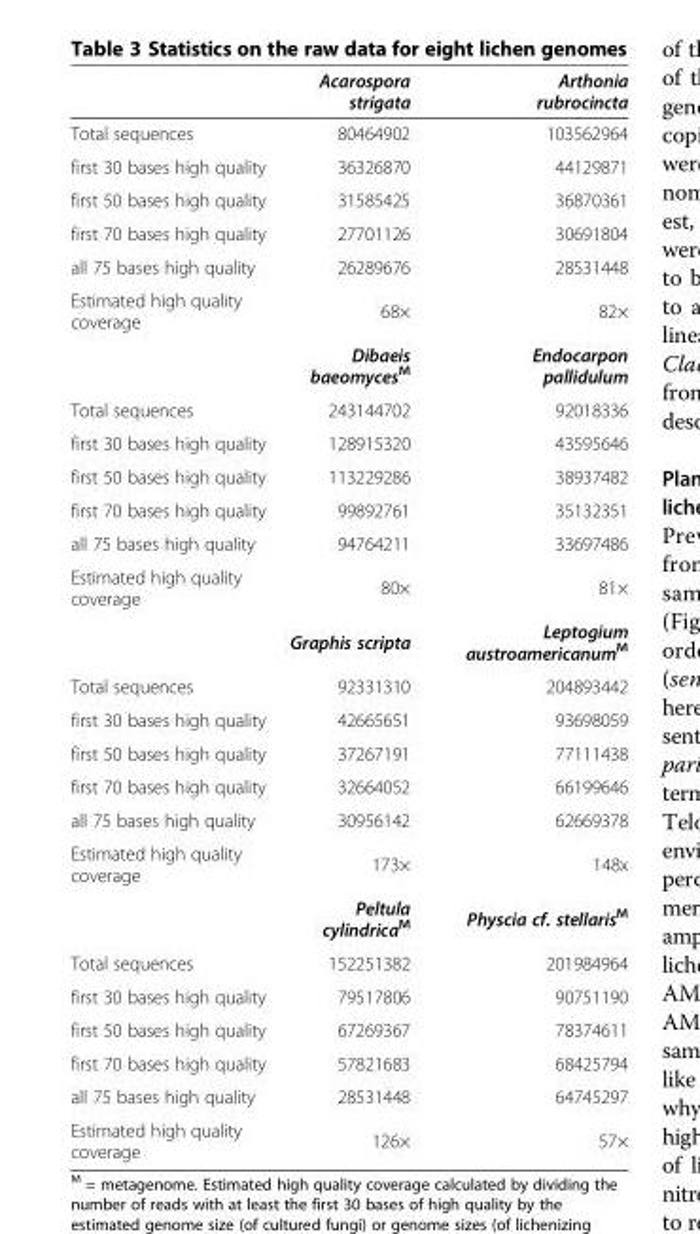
<table><thead><tr><td></td><td>Acarospora strigata</td><td>Arthonia rubrocincta</td></tr></thead><tbody><tr><td>Total sequences</td><td>80464902</td><td>103562964</td></tr><tr><td>first 30 bases high quality</td><td>36326870</td><td>44129871</td></tr><tr><td>first 50 bases high quality</td><td>31585425</td><td>36870361</td></tr><tr><td>first 70 bases high quality</td><td>27701126</td><td>30691804</td></tr><tr><td>all 75 bases high quality</td><td>26289676</td><td>28531448</td></tr><tr><td rowspan="2">Estimated high quality coverage</td><td>68×</td><td>82×</td></tr><tr><td>Dibaeis baeomyces<sup>M</sup></td><td>Endocarpon pallidulum</td></tr><tr><td>Total sequences</td><td>243144702</td><td>92018336</td></tr><tr><td>first 30 bases high quality</td><td>128915320</td><td>43595646</td></tr><tr><td>first 50 bases high quality</td><td>113229286</td><td>38937482</td></tr><tr><td>first 70 bases high quality</td><td>99892761</td><td>35132351</td></tr><tr><td>all 75 bases high quality</td><td>94764211</td><td>33697486</td></tr><tr><td rowspan="2">Estimated high quality coverage</td><td>80×</td><td>81×</td></tr><tr><td>Graphis scripta</td><td>Leptogium austroamericanum<sup>M</sup></td></tr><tr><td>Total sequences</td><td>92331310</td><td>204893442</td></tr><tr><td>first 30 bases high quality</td><td>42665651</td><td>93698059</td></tr><tr><td>first 50 bases high quality</td><td>37267191</td><td>77111438</td></tr><tr><td>first 70 bases high quality</td><td>32664052</td><td>66199646</td></tr><tr><td>all 75 bases high quality</td><td>30956142</td><td>62669378</td></tr><tr><td rowspan="2">Estimated high quality coverage</td><td>173×</td><td>148x</td></tr><tr><td>Peltula cylindrica<sup>M</sup></td><td>Physcia cf. stellaris<sup>M</sup></td></tr><tr><td>Total sequences</td><td>152251382</td><td>201984964</td></tr><tr><td>first 30 bases high quality</td><td>79517806</td><td>90751190</td></tr><tr><td>first 50 bases high quality</td><td>67269367</td><td>78374611</td></tr><tr><td>first 70 bases high quality</td><td>57821683</td><td>68425794</td></tr><tr><td>all 75 bases high quality</td><td>28531448</td><td>64745297</td></tr><tr><td>Estimated high quality coverage</td><td>126×</td><td>57×</td></tr></tbody></table>